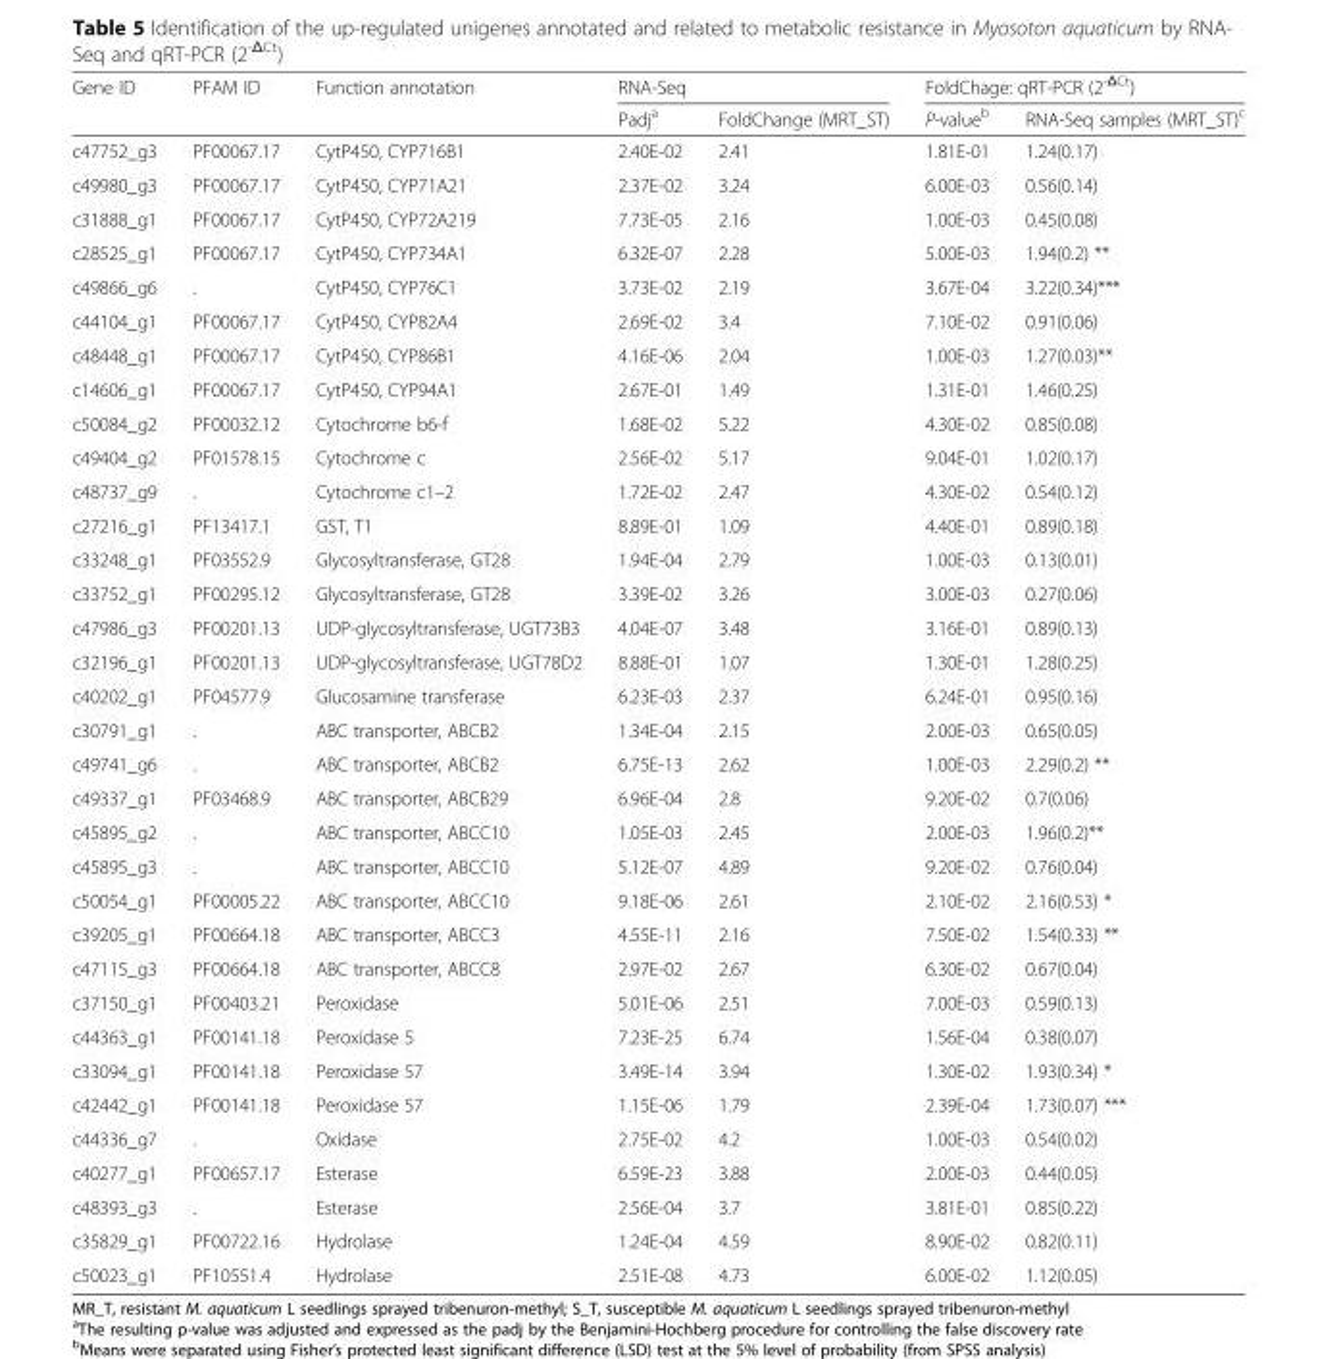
<table><thead><tr><td rowspan="2">Gene ID</td><td rowspan="2">PFAM ID</td><td rowspan="2">Function annotation</td><td colspan="2">RNA-Seq</td><td colspan="2">FoldChage: qRT-PCR (2<sup>-ΔCt</sup>)</td></tr><tr><td>Padj<sup>a</sup></td><td>FoldChange (MRT_ST)</td><td>P-value<sup>b</sup></td><td>RNA-Seq samples (MRT_ST)<sup>c</sup></td></tr></thead><tbody><tr><td>c47752_g3</td><td>PF00067.17</td><td>CytP450, CYP716B1</td><td>2.40E-02</td><td>2.41</td><td>1.81E-01</td><td>1.24(0.17)</td></tr><tr><td>c49980_g3</td><td>PF00067.17</td><td>CytP450, CYP71A21</td><td>2.37E-02</td><td>3.24</td><td>6.00E-03</td><td>0.56(0.14)</td></tr><tr><td>c31888_g1</td><td>PF00067.17</td><td>CytP450, CYP72A219</td><td>7.73E-05</td><td>2.16</td><td>1.00E-03</td><td>0.45(0.08)</td></tr><tr><td>c28525_g1</td><td>PF00067.17</td><td>CytP450, CYP734A1</td><td>6.32E-07</td><td>2.28</td><td>5.00E-03</td><td>1.94(0.2) **</td></tr><tr><td>c49866_g6</td><td>.</td><td>CytP450, CYP76C1</td><td>3.73E-02</td><td>2.19</td><td>3.67E-04</td><td>3.22(0.34)***</td></tr><tr><td>c44104_g1</td><td>PF00067.17</td><td>CytP450, CYP82A4</td><td>2.69E-02</td><td>3.4</td><td>7.10E-02</td><td>0.91(0.06)</td></tr><tr><td>c48448_g1</td><td>PF00067.17</td><td>CytP450, CYP86B1</td><td>4.16E-06</td><td>2.04</td><td>1.00E-03</td><td>1.27(0.03)**</td></tr><tr><td>c14606_g1</td><td>PF00067.17</td><td>CytP450, CYP94A1</td><td>2.67E-01</td><td>1.49</td><td>1.31E-01</td><td>1.46(0.25)</td></tr><tr><td>c50084_g2</td><td>PF00032.12</td><td>Cytochrome b6-f</td><td>1.68E-02</td><td>5.22</td><td>4.30E-02</td><td>0.85(0.08)</td></tr><tr><td>c49404_g2</td><td>PF01578.15</td><td>Cytochrome c</td><td>2.56E-02</td><td>5.17</td><td>9.04E-01</td><td>1.02(0.17)</td></tr><tr><td>c48737_g9</td><td>.</td><td>Cytochrome c1–2</td><td>1.72E-02</td><td>2.47</td><td>4.30E-02</td><td>0.54(0.12)</td></tr><tr><td>c27216_g1</td><td>PF13417.1</td><td>GST, T1</td><td>8.89E-01</td><td>1.09</td><td>4.40E-01</td><td>0.89(0.18)</td></tr><tr><td>c33248_g1</td><td>PF03552.9</td><td>Glycosyltransferase, GT28</td><td>1.94E-04</td><td>2.79</td><td>1.00E-03</td><td>0.13(0.01)</td></tr><tr><td>c33752_g1</td><td>PF00295.12</td><td>Glycosyltransferase, GT28</td><td>3.39E-02</td><td>3.26</td><td>3.00E-03</td><td>0.27(0.06)</td></tr><tr><td>c47986_g3</td><td>PF00201.13</td><td>UDP-glycosyltransferase, UGT73B3</td><td>4.04E-07</td><td>3.48</td><td>3.16E-01</td><td>0.89(0.13)</td></tr><tr><td>c32196_g1</td><td>PF00201.13</td><td>UDP-glycosyltransferase, UGT78D2</td><td>8.88E-01</td><td>1.07</td><td>1.30E-01</td><td>1.28(0.25)</td></tr><tr><td>c40202_g1</td><td>PF04577.9</td><td>Glucosamine transferase</td><td>6.23E-03</td><td>2.37</td><td>6.24E-01</td><td>0.95(0.16)</td></tr><tr><td>c30791_g1</td><td>.</td><td>ABC transporter, ABCB2</td><td>1.34E-04</td><td>2.15</td><td>2.00E-03</td><td>0.65(0.05)</td></tr><tr><td>c49741_g6</td><td>.</td><td>ABC transporter, ABCB2</td><td>6.75E-13</td><td>2.62</td><td>1.00E-03</td><td>2.29(0.2) **</td></tr><tr><td>c49337_g1</td><td>PF03468.9</td><td>ABC transporter, ABCB29</td><td>6.96E-04</td><td>2.8</td><td>9.20E-02</td><td>0.7(0.06)</td></tr><tr><td>c45895_g2</td><td>.</td><td>ABC transporter, ABCC10</td><td>1.05E-03</td><td>2.45</td><td>2.00E-03</td><td>1.96(0.2)**</td></tr><tr><td>c45895_g3</td><td>.</td><td>ABC transporter, ABCC10</td><td>5.12E-07</td><td>4.89</td><td>9.20E-02</td><td>0.76(0.04)</td></tr><tr><td>c50054_g1</td><td>PF00005.22</td><td>ABC transporter, ABCC10</td><td>9.18E-06</td><td>2.61</td><td>2.10E-02</td><td>2.16(0.53) *</td></tr><tr><td>c39205_g1</td><td>PF00664.18</td><td>ABC transporter, ABCC3</td><td>4.55E-11</td><td>2.16</td><td>7.50E-02</td><td>1.54(0.33) **</td></tr><tr><td>c47115_g3</td><td>PF00664.18</td><td>ABC transporter, ABCC8</td><td>2.97E-02</td><td>2.67</td><td>6.30E-02</td><td>0.67(0.04)</td></tr><tr><td>c37150_g1</td><td>PF00403.21</td><td>Peroxidase</td><td>5.01E-06</td><td>2.51</td><td>7.00E-03</td><td>0.59(0.13)</td></tr><tr><td>c44363_g1</td><td>PF00141.18</td><td>Peroxidase 5</td><td>7.23E-25</td><td>6.74</td><td>1.56E-04</td><td>0.38(0.07)</td></tr><tr><td>c33094_g1</td><td>PF00141.18</td><td>Peroxidase 57</td><td>3.49E-14</td><td>3.94</td><td>1.30E-02</td><td>1.93(0.34) *</td></tr><tr><td>c42442_g1</td><td>PF00141.18</td><td>Peroxidase 57</td><td>1.15E-06</td><td>1.79</td><td>2.39E-04</td><td>1.73(0.07) ***</td></tr><tr><td>c44336_g7</td><td>.</td><td>Oxidase</td><td>2.75E-02</td><td>4.2</td><td>1.00E-03</td><td>0.54(0.02)</td></tr><tr><td>c40277_g1</td><td>PF00657.17</td><td>Esterase</td><td>6.59E-23</td><td>3.88</td><td>2.00E-03</td><td>0.44(0.05)</td></tr><tr><td>c48393_g3</td><td>.</td><td>Esterase</td><td>2.56E-04</td><td>3.7</td><td>3.81E-01</td><td>0.85(0.22)</td></tr><tr><td>c35829_g1</td><td>PF00722.16</td><td>Hydrolase</td><td>1.24E-04</td><td>4.59</td><td>8.90E-02</td><td>0.82(0.11)</td></tr><tr><td>c50023_g1</td><td>PF10551.4</td><td>Hydrolase</td><td>2.51E-08</td><td>4.73</td><td>6.00E-02</td><td>1.12(0.05)</td></tr></tbody></table>